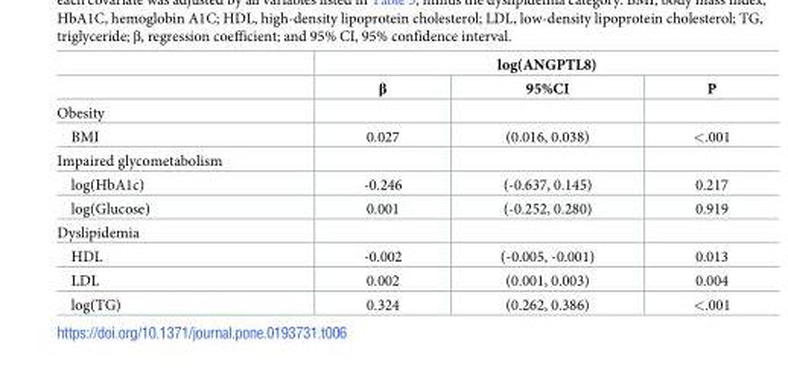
<table><thead><tr><td rowspan="2"></td><td colspan="3">log(ANGPTL8)</td></tr><tr><td>β</td><td>95%CI</td><td>P</td></tr></thead><tbody><tr><td colspan="4">Obesity</td></tr><tr><td>BMI</td><td>0.027</td><td>(0.016, 0.038)</td><td>&lt;.001</td></tr><tr><td colspan="4">Impaired glycometabolism</td></tr><tr><td>log(HbA1c)</td><td>-0.246</td><td>(-0.637, 0.145)</td><td>0.217</td></tr><tr><td>log(Glucose)</td><td>0.001</td><td>(-0.252, 0.280)</td><td>0.919</td></tr><tr><td colspan="4">Dyslipidemia</td></tr><tr><td>HDL</td><td>-0.002</td><td>(-0.005, -0.001)</td><td>0.013</td></tr><tr><td>LDL</td><td>0.002</td><td>(0.001, 0.003)</td><td>0.004</td></tr><tr><td>log(TG)</td><td>0.324</td><td>(0.262, 0.386)</td><td>&lt;.001</td></tr></tbody></table>